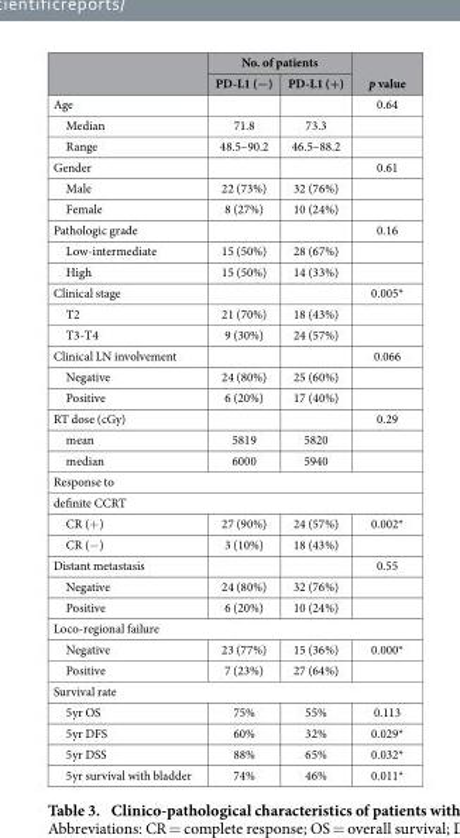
<table><thead><tr><td rowspan="2"></td><td colspan="2">No. of patients</td><td rowspan="2">p value</td></tr><tr><td>PD-L1 (−)</td><td>PD-L1 (+)</td></tr></thead><tbody><tr><td>Age</td><td></td><td></td><td>0.64</td></tr><tr><td>Median</td><td>71.8</td><td>73.3</td><td></td></tr><tr><td>Range</td><td>48.5–90.2</td><td>46.5–88.2</td><td></td></tr><tr><td>Gender</td><td></td><td></td><td>0.61</td></tr><tr><td>Male</td><td>22 (73%)</td><td>32 (76%)</td><td></td></tr><tr><td>Female</td><td>8 (27%)</td><td>10 (24%)</td><td></td></tr><tr><td>Pathologic grade</td><td></td><td></td><td>0.16</td></tr><tr><td>Low-intermediate</td><td>15 (50%)</td><td>28 (67%)</td><td></td></tr><tr><td>High</td><td>15 (50%)</td><td>14 (33%)</td><td></td></tr><tr><td>Clinical stage</td><td></td><td></td><td>0.005*</td></tr><tr><td>T2</td><td>21 (70%)</td><td>18 (43%)</td><td></td></tr><tr><td>T3-T4</td><td>9 (30%)</td><td>24 (57%)</td><td></td></tr><tr><td>Clinical LN involvement</td><td></td><td></td><td>0.066</td></tr><tr><td>Negative</td><td>24 (80%)</td><td>25 (60%)</td><td></td></tr><tr><td>Positive</td><td>6 (20%)</td><td>17 (40%)</td><td></td></tr><tr><td>RT dose (cGy)</td><td></td><td></td><td>0.29</td></tr><tr><td>mean</td><td>5819</td><td>5820</td><td></td></tr><tr><td>median</td><td>6000</td><td>5940</td><td></td></tr><tr><td colspan="4">Response to</td></tr><tr><td colspan="4">definite CCRT</td></tr><tr><td>CR (+ )</td><td>27 (90%)</td><td>24 (57%)</td><td>0.002*</td></tr><tr><td>CR (− )</td><td>3 (10%)</td><td>18 (43%)</td><td></td></tr><tr><td>Distant metastasis</td><td></td><td></td><td>0.55</td></tr><tr><td>Negative</td><td>24 (80%)</td><td>32 (76%)</td><td></td></tr><tr><td>Positive</td><td>6 (20%)</td><td>10 (24%)</td><td></td></tr><tr><td colspan="4">Loco-regional failure</td></tr><tr><td>Negative</td><td>23 (77%)</td><td>15 (36%)</td><td>0.000*</td></tr><tr><td>Positive</td><td>7 (23%)</td><td>27 (64%)</td><td></td></tr><tr><td colspan="4">Survival rate</td></tr><tr><td>5yr OS</td><td>75%</td><td>55%</td><td>0.113</td></tr><tr><td>5yr DFS</td><td>60%</td><td>32%</td><td>0.029*</td></tr><tr><td>5yr DSS</td><td>88%</td><td>65%</td><td>0.032*</td></tr><tr><td>5yr survival with bladder</td><td>74%</td><td>46%</td><td>0.011*</td></tr></tbody></table>